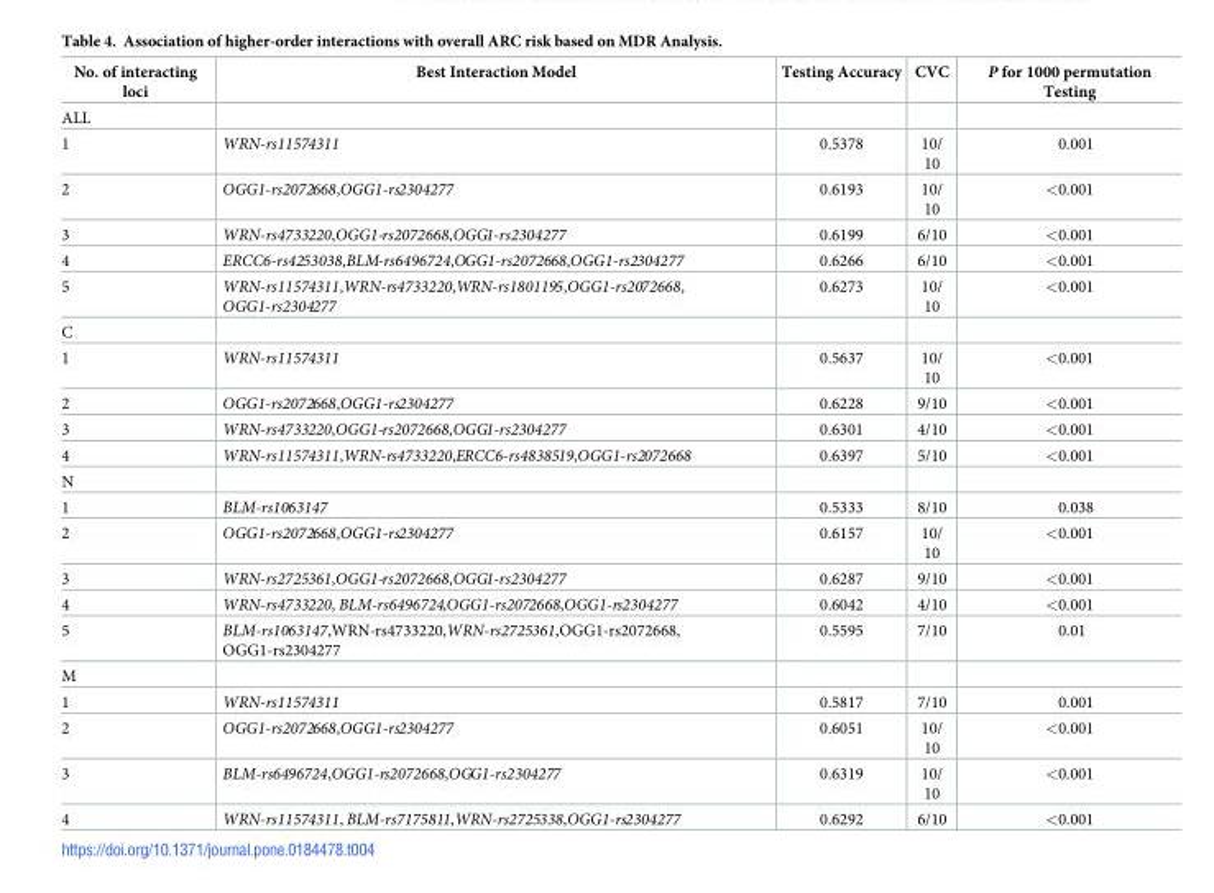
<table><thead><tr><td>No. of interacting loci</td><td>Best Interaction Model</td><td>Testing Accuracy</td><td>CVC</td><td>P for 1000 permutation Testing</td></tr></thead><tbody><tr><td colspan="5">ALL</td></tr><tr><td>1</td><td>WRN-rs11574311</td><td>0.5378</td><td>10/ 10</td><td>0.001</td></tr><tr><td>2</td><td>OGG1-rs2072668,OGG1-rs2304277</td><td>0.6193</td><td>10/ 10</td><td>&lt;0.001</td></tr><tr><td>3</td><td>WRN-rs4733220,OGG1-rs2072668,OGG1-rs2304277</td><td>0.6199</td><td>6/10</td><td>&lt;0.001</td></tr><tr><td>4</td><td>ERCC6-rs4253038,BLM-rs6496724,OGG1-rs2072668,OGG1-rs2304277</td><td>0.6266</td><td>6/10</td><td>&lt;0.001</td></tr><tr><td>5</td><td>WRN-rs11574311,WRN-rs4733220,WRN-rs1801195,OGG1-rs2072668, OGG1-rs2304277</td><td>0.6273</td><td>10/ 10</td><td>&lt;0.001</td></tr><tr><td colspan="5">C</td></tr><tr><td>1</td><td>WRN-rs11574311</td><td>0.5637</td><td>10/ 10</td><td>&lt;0.001</td></tr><tr><td>2</td><td>OGG1-rs2072668,OGG1-rs2304277</td><td>0.6228</td><td>9/10</td><td>&lt;0.001</td></tr><tr><td>3</td><td>WRN-rs4733220,OGG1-rs2072668,OGG1-rs2304277</td><td>0.6301</td><td>4/10</td><td>&lt;0.001</td></tr><tr><td>4</td><td>WRN-rs11574311,WRN-rs4733220,ERCC6-rs4838519,OGG1-rs2072668</td><td>0.6397</td><td>5/10</td><td>&lt;0.001</td></tr><tr><td colspan="5">N</td></tr><tr><td>1</td><td>BLM-rs1063147</td><td>0.5333</td><td>8/10</td><td>0.038</td></tr><tr><td>2</td><td>OGG1-rs2072668,OGG1-rs2304277</td><td>0.6157</td><td>10/ 10</td><td>&lt;0.001</td></tr><tr><td>3</td><td>WRN-rs2725361,OGG1-rs2072668,OGG1-rs2304277</td><td>0.6287</td><td>9/10</td><td>&lt;0.001</td></tr><tr><td>4</td><td>WRN-rs4733220, BLM-rs6496724,OGG1-rs2072668,OGG1-rs2304277</td><td>0.6042</td><td>4/10</td><td>&lt;0.001</td></tr><tr><td>5</td><td>BLM-rs1063147,WRN-rs4733220,WRN-rs2725361,OGG1-rs2072668, OGG1-rs2304277</td><td>0.5595</td><td>7/10</td><td>0.01</td></tr><tr><td colspan="5">M</td></tr><tr><td>1</td><td>WRN-rs11574311</td><td>0.5817</td><td>7/10</td><td>0.001</td></tr><tr><td>2</td><td>OGG1-rs2072668,OGG1-rs2304277</td><td>0.6051</td><td>10/ 10</td><td>&lt;0.001</td></tr><tr><td>3</td><td>BLM-rs6496724,OGG1-rs2072668,OGG1-rs2304277</td><td>0.6319</td><td>10/ 10</td><td>&lt;0.001</td></tr><tr><td>4</td><td>WRN-rs11574311, BLM-rs7175811,WRN-rs2725338,OGG1-rs2304277</td><td>0.6292</td><td>6/10</td><td>&lt;0.001</td></tr></tbody></table>